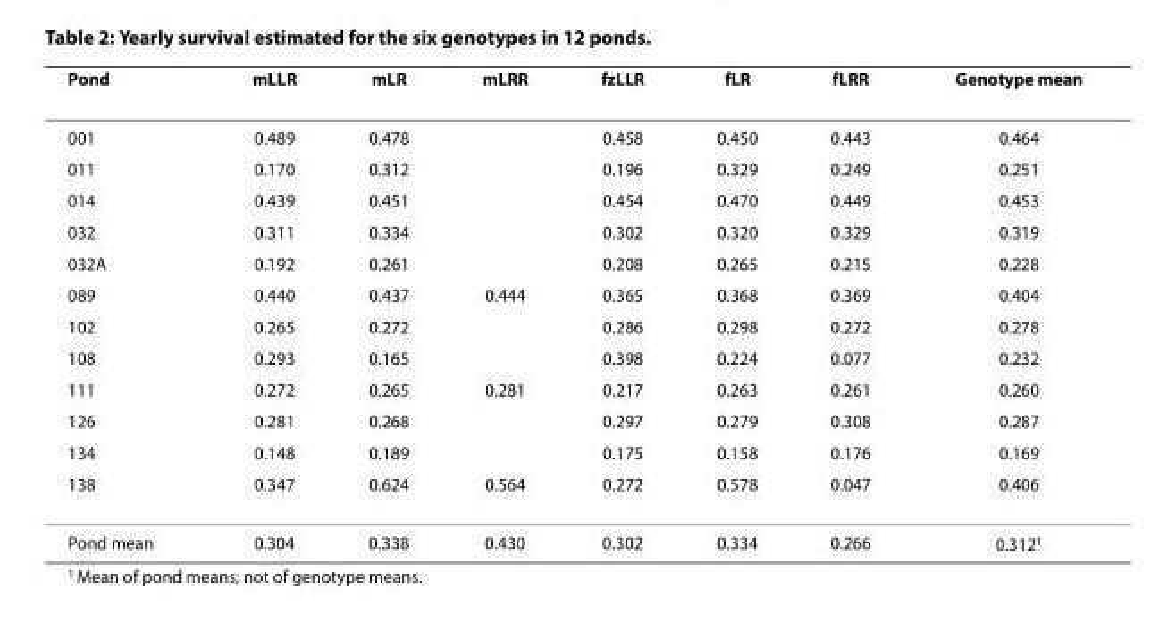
<table><thead><tr><td>Pond</td><td>mLLR</td><td>mLR</td><td>mLRR</td><td>fzLLR</td><td>fLR</td><td>fLRR</td><td>Genotype mean</td></tr></thead><tbody><tr><td>001</td><td>0.489</td><td>0.478</td><td></td><td>0.458</td><td>0.450</td><td>0.443</td><td>0.464</td></tr><tr><td>011</td><td>0.170</td><td>0.312</td><td></td><td>0.196</td><td>0.329</td><td>0.249</td><td>0.251</td></tr><tr><td>014</td><td>0.439</td><td>0.451</td><td></td><td>0.454</td><td>0.470</td><td>0.449</td><td>0.453</td></tr><tr><td>032</td><td>0.311</td><td>0.334</td><td></td><td>0.302</td><td>0.320</td><td>0.329</td><td>0.319</td></tr><tr><td>032A</td><td>0.192</td><td>0.261</td><td></td><td>0.208</td><td>0.265</td><td>0.215</td><td>0.228</td></tr><tr><td>089</td><td>0.440</td><td>0.437</td><td>0.444</td><td>0.365</td><td>0.368</td><td>0.369</td><td>0.404</td></tr><tr><td>102</td><td>0.265</td><td>0.272</td><td></td><td>0.286</td><td>0.298</td><td>0.272</td><td>0.278</td></tr><tr><td>108</td><td>0.293</td><td>0.165</td><td></td><td>0.398</td><td>0.224</td><td>0.077</td><td>0.232</td></tr><tr><td>111</td><td>0.272</td><td>0.265</td><td>0.281</td><td>0.217</td><td>0.263</td><td>0.261</td><td>0.260</td></tr><tr><td>126</td><td>0.281</td><td>0.268</td><td></td><td>0.297</td><td>0.279</td><td>0.308</td><td>0.287</td></tr><tr><td>134</td><td>0.148</td><td>0.189</td><td></td><td>0.175</td><td>0.158</td><td>0.176</td><td>0.169</td></tr><tr><td>138</td><td>0.347</td><td>0.624</td><td>0.564</td><td>0.272</td><td>0.578</td><td>0.047</td><td>0.406</td></tr><tr><td>Pond mean</td><td>0.304</td><td>0.338</td><td>0.430</td><td>0.302</td><td>0.334</td><td>0.266</td><td>0.312<sup>1</sup></td></tr></tbody></table>